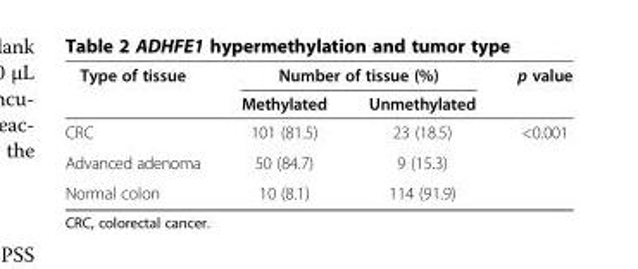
<table><thead><tr><td rowspan="2">Type of tissue</td><td colspan="2">Number of tissue (%)</td><td rowspan="2">p value</td></tr><tr><td>Methylated</td><td>Unmethylated</td></tr></thead><tbody><tr><td>CRC</td><td>101 (81.5)</td><td>23 (18.5)</td><td>&lt;0.001</td></tr><tr><td>Advanced adenoma</td><td>50 (84.7)</td><td>9 (15.3)</td><td></td></tr><tr><td>Normal colon</td><td>10 (8.1)</td><td>114 (91.9)</td><td></td></tr></tbody></table>